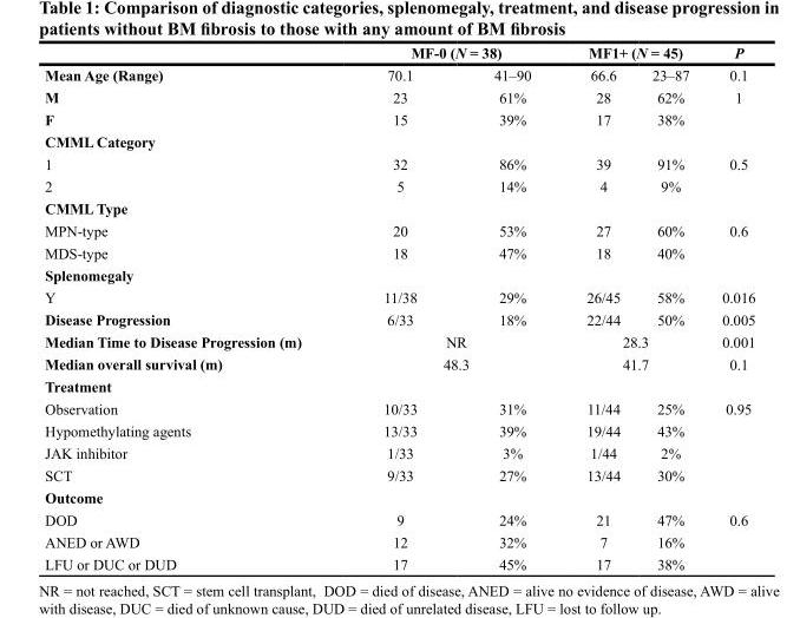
<table><thead><tr><td rowspan="2">Mean Age (Range)</td><td colspan="2">MF-0 (N = 38)</td><td colspan="2">MF1+ (N = 45)</td><td rowspan="2">P 0.1</td></tr><tr><td>70.1</td><td>41–90</td><td>66.6</td><td>23–87</td></tr></thead><tbody><tr><td>M</td><td>23</td><td>61%</td><td>28</td><td>62%</td><td>1</td></tr><tr><td>F</td><td>15</td><td>39%</td><td>17</td><td>38%</td><td></td></tr><tr><td colspan="6">CMML Category</td></tr><tr><td>1</td><td>32</td><td>86%</td><td>39</td><td>91%</td><td>0.5</td></tr><tr><td>2</td><td>5</td><td>14%</td><td>4</td><td>9%</td><td></td></tr><tr><td colspan="6">CMML Type</td></tr><tr><td>MPN-type</td><td>20</td><td>53%</td><td>27</td><td>60%</td><td>0.6</td></tr><tr><td>MDS-type</td><td>18</td><td>47%</td><td>18</td><td>40%</td><td></td></tr><tr><td colspan="6">Splenomegaly</td></tr><tr><td>Y</td><td>11/38</td><td>29%</td><td>26/45</td><td>58%</td><td>0.016</td></tr><tr><td>Disease Progression</td><td>6/33</td><td>18%</td><td>22/44</td><td>50%</td><td>0.005</td></tr><tr><td>Median Time to Disease Progression (m)</td><td colspan="2">NR</td><td colspan="2">28.3</td><td>0.001</td></tr><tr><td>Median overall survival (m)</td><td colspan="2">48.3</td><td colspan="2">41.7</td><td>0.1</td></tr><tr><td colspan="6">Treatment</td></tr><tr><td>Observation</td><td>10/33</td><td>31%</td><td>11/44</td><td>25%</td><td>0.95</td></tr><tr><td>Hypomethylating agents</td><td>13/33</td><td>39%</td><td>19/44</td><td>43%</td><td></td></tr><tr><td>JAK inhibitor</td><td>1/33</td><td>3%</td><td>1/44</td><td>2%</td><td></td></tr><tr><td>SCT</td><td>9/33</td><td>27%</td><td>13/44</td><td>30%</td><td></td></tr><tr><td colspan="6">Outcome</td></tr><tr><td>DOD</td><td>9</td><td>24%</td><td>21</td><td>47%</td><td>0.6</td></tr><tr><td>ANED or AWD</td><td>12</td><td>32%</td><td>7</td><td>16%</td><td></td></tr><tr><td>LFU or DUC or DUD</td><td>17</td><td>45%</td><td>17</td><td>38%</td><td></td></tr></tbody></table>